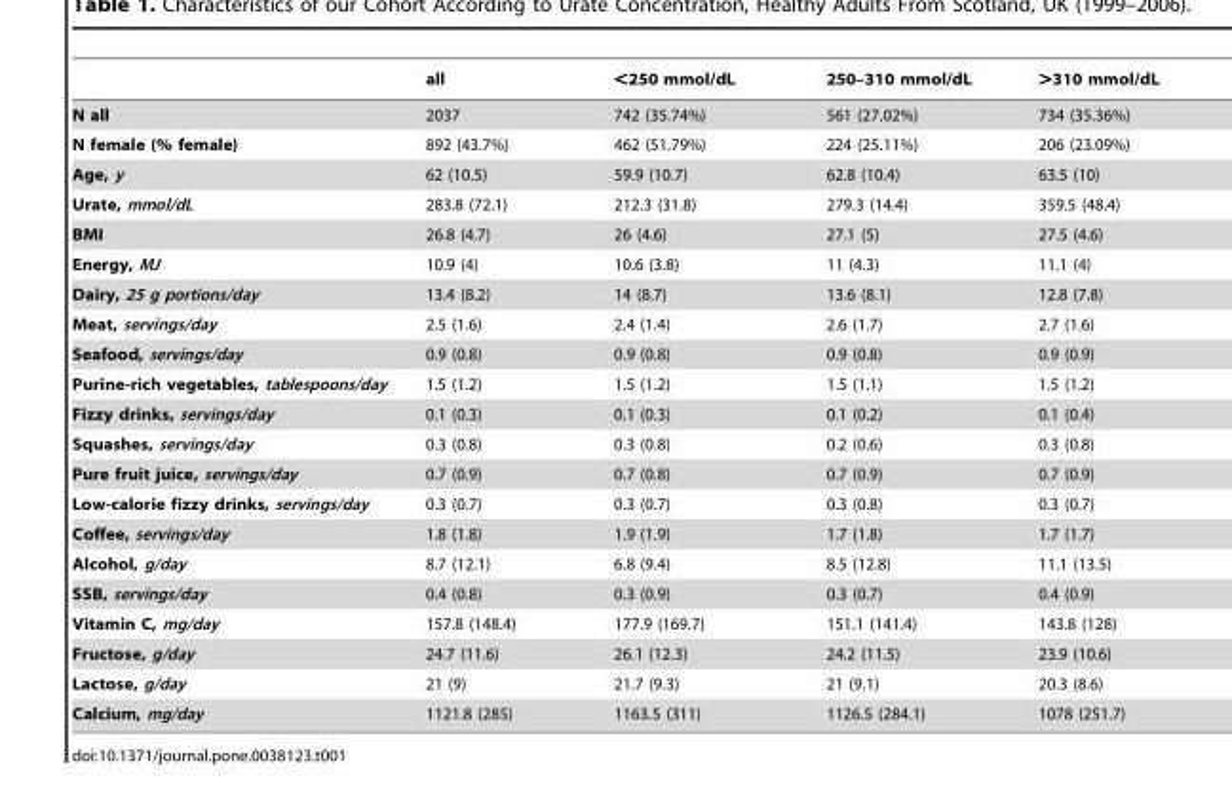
<table><thead><tr><td></td><td>all</td><td>&lt;250 mmol/dL</td><td>250–310 mmol/dL</td><td>&gt;310 mmol/dL</td></tr></thead><tbody><tr><td>N all</td><td>2037</td><td>742 (35.74%)</td><td>561 (27.02%)</td><td>734 (35.36%)</td></tr><tr><td>N female (% female)</td><td>892 (43.7%)</td><td>462 (51.79%)</td><td>224 (25.11%)</td><td>206 (23.09%)</td></tr><tr><td>Age, y</td><td>62 (10.5)</td><td>59.9 (10.7)</td><td>62.8 (10.4)</td><td>63.5 (10)</td></tr><tr><td>Urate, mmol/dL</td><td>283.8 (72.1)</td><td>212.3 (31.8)</td><td>279.3 (14.4)</td><td>359.5 (48.4)</td></tr><tr><td>BMI</td><td>26.8 (4.7)</td><td>26 (4.6)</td><td>27.1 (5)</td><td>27.5 (4.6)</td></tr><tr><td>Energy, MJ</td><td>10.9 (4)</td><td>10.6 (3.8)</td><td>11 (4.3)</td><td>11.1 (4)</td></tr><tr><td>Dairy, 25 g portions/day</td><td>13.4 (8.2)</td><td>14 (8.7)</td><td>13.6 (8.1)</td><td>12.8 (7.8)</td></tr><tr><td>Meat, servings/day</td><td>2.5 (1.6)</td><td>2.4 (1.4)</td><td>2.6 (1.7)</td><td>2.7 (1.6)</td></tr><tr><td>Seafood, servings/day</td><td>0.9 (0.8)</td><td>0.9 (0.8)</td><td>0.9 (0.8)</td><td>0.9 (0.9)</td></tr><tr><td>Purine-rich vegetables, tablespoons/day</td><td>1.5 (1.2)</td><td>1.5 (1.2)</td><td>1.5 (1.1)</td><td>1.5 (1.2)</td></tr><tr><td>Fizzy drinks, servings/day</td><td>0.1 (0.3)</td><td>0.1 (0.3)</td><td>0.1 (0.2)</td><td>0.1 (0.4)</td></tr><tr><td>Squashes, servings/day</td><td>0.3 (0.8)</td><td>0.3 (0.8)</td><td>0.2 (0.6)</td><td>0.3 (0.8)</td></tr><tr><td>Pure fruit juice, servings/day</td><td>0.7 (0.9)</td><td>0.7 (0.8)</td><td>0.7 (0.9)</td><td>0.7 (0.9)</td></tr><tr><td>Low-calorie fizzy drinks, servings/day</td><td>0.3 (0.7)</td><td>0.3 (0.7)</td><td>0.3 (0.8)</td><td>0.3 (0.7)</td></tr><tr><td>Coffee, servings/day</td><td>1.8 (1.8)</td><td>1.9 (1.9)</td><td>1.7 (1.8)</td><td>1.7 (1.7)</td></tr><tr><td>Alcohol, g/day</td><td>8.7 (12.1)</td><td>6.8 (9.4)</td><td>8.5 (12.8)</td><td>11.1 (13.5)</td></tr><tr><td>SSB, servings/day</td><td>0.4 (0.8)</td><td>0.3 (0.9)</td><td>0.3 (0.7)</td><td>0.4 (0.9)</td></tr><tr><td>Vitamin C, mg/day</td><td>157.8 (148.4)</td><td>177.9 (169.7)</td><td>151.1 (141.4)</td><td>143.8 (128)</td></tr><tr><td>Fructose, g/day</td><td>24.7 (11.6)</td><td>26.1 (12.3)</td><td>24.2 (11.5)</td><td>23.9 (10.6)</td></tr><tr><td>Lactose, g/day</td><td>21 (9)</td><td>21.7 (9.3)</td><td>21 (9.1)</td><td>20.3 (8.6)</td></tr><tr><td>Calcium, mg/day</td><td>1121.8 (285)</td><td>1163.5 (311)</td><td>1126.5 (284.1)</td><td>1078 (251.7)</td></tr></tbody></table>